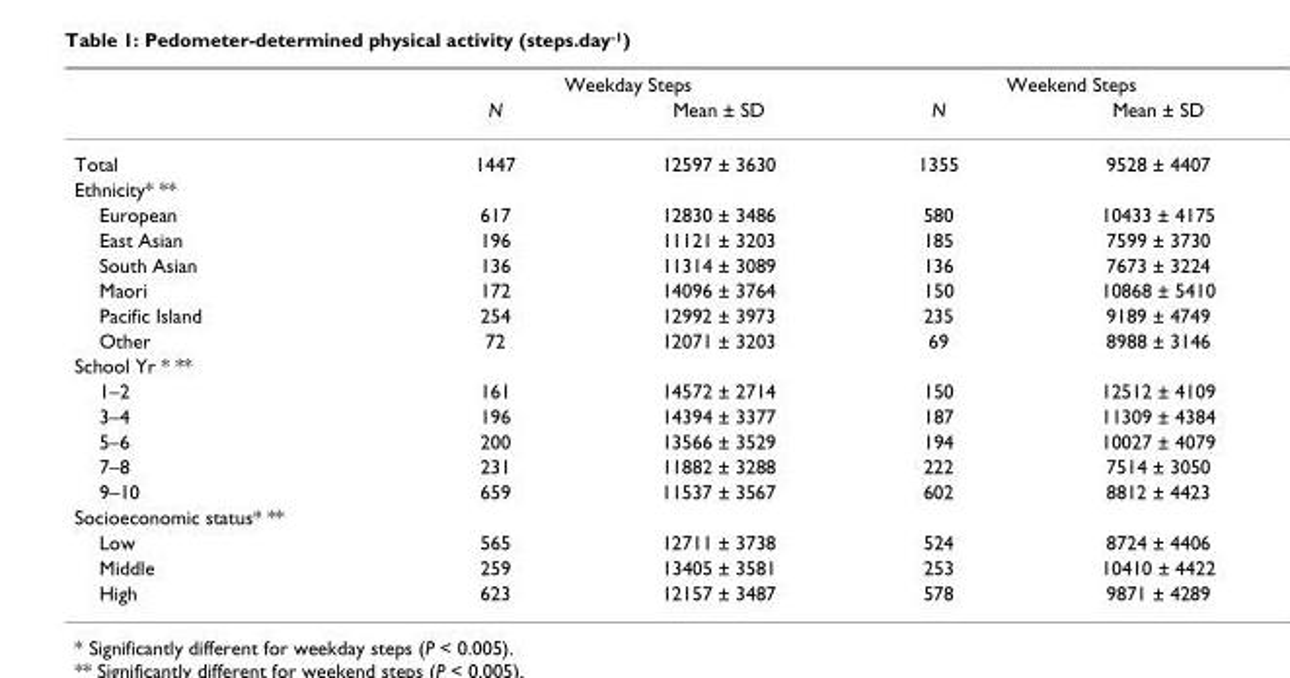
<table><thead><tr><td rowspan="2"></td><td colspan="2">Weekday Steps</td><td colspan="2">Weekend Steps</td></tr><tr><td>N</td><td>Mean ± SD</td><td>N</td><td>Mean ± SD</td></tr></thead><tbody><tr><td>Total</td><td>1447</td><td>12597 ± 3630</td><td>1355</td><td>9528 ± 4407</td></tr><tr><td colspan="5">Ethnicity* **</td></tr><tr><td>European</td><td>617</td><td>12830 ± 3486</td><td>580</td><td>10433 ± 4175</td></tr><tr><td>East Asian</td><td>196</td><td>11121 ± 3203</td><td>185</td><td>7599 ± 3730</td></tr><tr><td>South Asian</td><td>136</td><td>11314 ± 3089</td><td>136</td><td>7673 ± 3224</td></tr><tr><td>Maori</td><td>172</td><td>14096 ± 3764</td><td>150</td><td>10868 ± 5410</td></tr><tr><td>Pacific Island</td><td>254</td><td>12992 ± 3973</td><td>235</td><td>9189 ± 4749</td></tr><tr><td>Other</td><td>72</td><td>12071 ± 3203</td><td>69</td><td>8988 ± 3146</td></tr><tr><td colspan="5">School Yr * **</td></tr><tr><td>1–2</td><td>161</td><td>14572 ± 2714</td><td>150</td><td>12512 ± 4109</td></tr><tr><td>3–4</td><td>196</td><td>14394 ± 3377</td><td>187</td><td>11309 ± 4384</td></tr><tr><td>5–6</td><td>200</td><td>13566 ± 3529</td><td>194</td><td>10027 ± 4079</td></tr><tr><td>7–8</td><td>231</td><td>11882 ± 3288</td><td>222</td><td>7514 ± 3050</td></tr><tr><td>9–10</td><td>659</td><td>11537 ± 3567</td><td>602</td><td>8812 ± 4423</td></tr><tr><td colspan="5">Socioeconomic status* **</td></tr><tr><td>Low</td><td>565</td><td>12711 ± 3738</td><td>524</td><td>8724 ± 4406</td></tr><tr><td>Middle</td><td>259</td><td>13405 ± 3581</td><td>253</td><td>10410 ± 4422</td></tr><tr><td>High</td><td>623</td><td>12157 ± 3487</td><td>578</td><td>9871 ± 4289</td></tr></tbody></table>